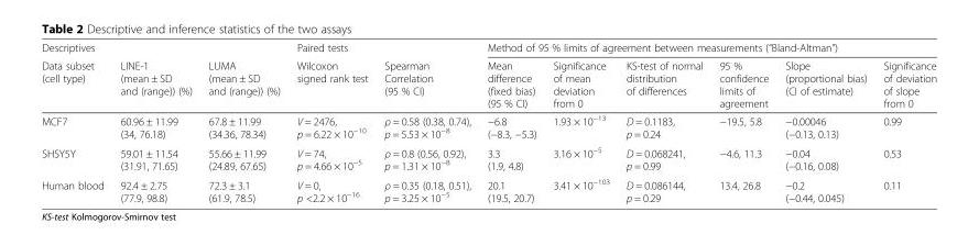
<table><thead><tr><td rowspan="2">Descriptives Data subset (cell type)</td><td rowspan="2">LINE-1 (mean ± SD and (range)) (%)</td><td rowspan="2">LUMA (mean ± SD and (range)) (%)</td><td rowspan="2">Paired tests Wilcoxon signed rank test</td><td rowspan="2">Spearman Correlation (95 % CI)</td><td colspan="6">Method of 95 % limits of agreement between measurements (“Bland-Altman”)</td></tr><tr><td>Mean difference (fixed bias) (95 % CI)</td><td>Significance of mean deviation from 0</td><td>KS-test of normal distribution of differences</td><td>95 % confidence limits of agreement</td><td>Slope (proportional bias) (CI of estimate)</td><td>Significance of deviation of slope from 0</td></tr></thead><tbody><tr><td>MCF7</td><td>60.96 ± 11.99 (34, 76.18)</td><td>67.8 ± 11.99 (34.36, 78.34)</td><td>V = 2476, p = 6.22 × 10<sup>−10</sup></td><td>ρ = 0.58 (0.38, 0.74), p = 5.53 × 10<sup>−8</sup></td><td>−6.8 (−8.3, −5.3)</td><td>1.93 × 10<sup>−13</sup></td><td>D = 0.1183, p = 0.24</td><td>−19.5, 5.8</td><td>−0.00046 (−0.13, 0.13)</td><td>0.99</td></tr><tr><td>SHSY5Y</td><td>59.01 ± 11.54 (31.91, 71.65)</td><td>55.66 ± 11.99 (24.89, 67.65)</td><td>V = 74, p = 4.66 × 10<sup>−5</sup></td><td>ρ = 0.8 (0.56, 0.92), p = 1.31 × 10<sup>−8</sup></td><td>3.3 (1.9, 4.8)</td><td>3.16 × 10<sup>−5</sup></td><td>D = 0.068241, p = 0.99</td><td>−4.6, 11.3</td><td>−0.04 (−0.16, 0.08)</td><td>0.53</td></tr><tr><td>Human blood</td><td>92.4 ± 2.75 (77.9, 98.8)</td><td>72.3 ± 3.1 (61.9, 78.5)</td><td>V = 0, p &lt;2.2 × 10<sup>−16</sup></td><td>ρ = 0.35 (0.18, 0.51), p = 3.25 × 10<sup>−5</sup></td><td>20.1 (19.5, 20.7)</td><td>3.41 × 10<sup>−103</sup></td><td>D = 0.086144, p = 0.29</td><td>13.4, 26.8</td><td>−0.2 (−0.44, 0.045)</td><td>0.11</td></tr></tbody></table>